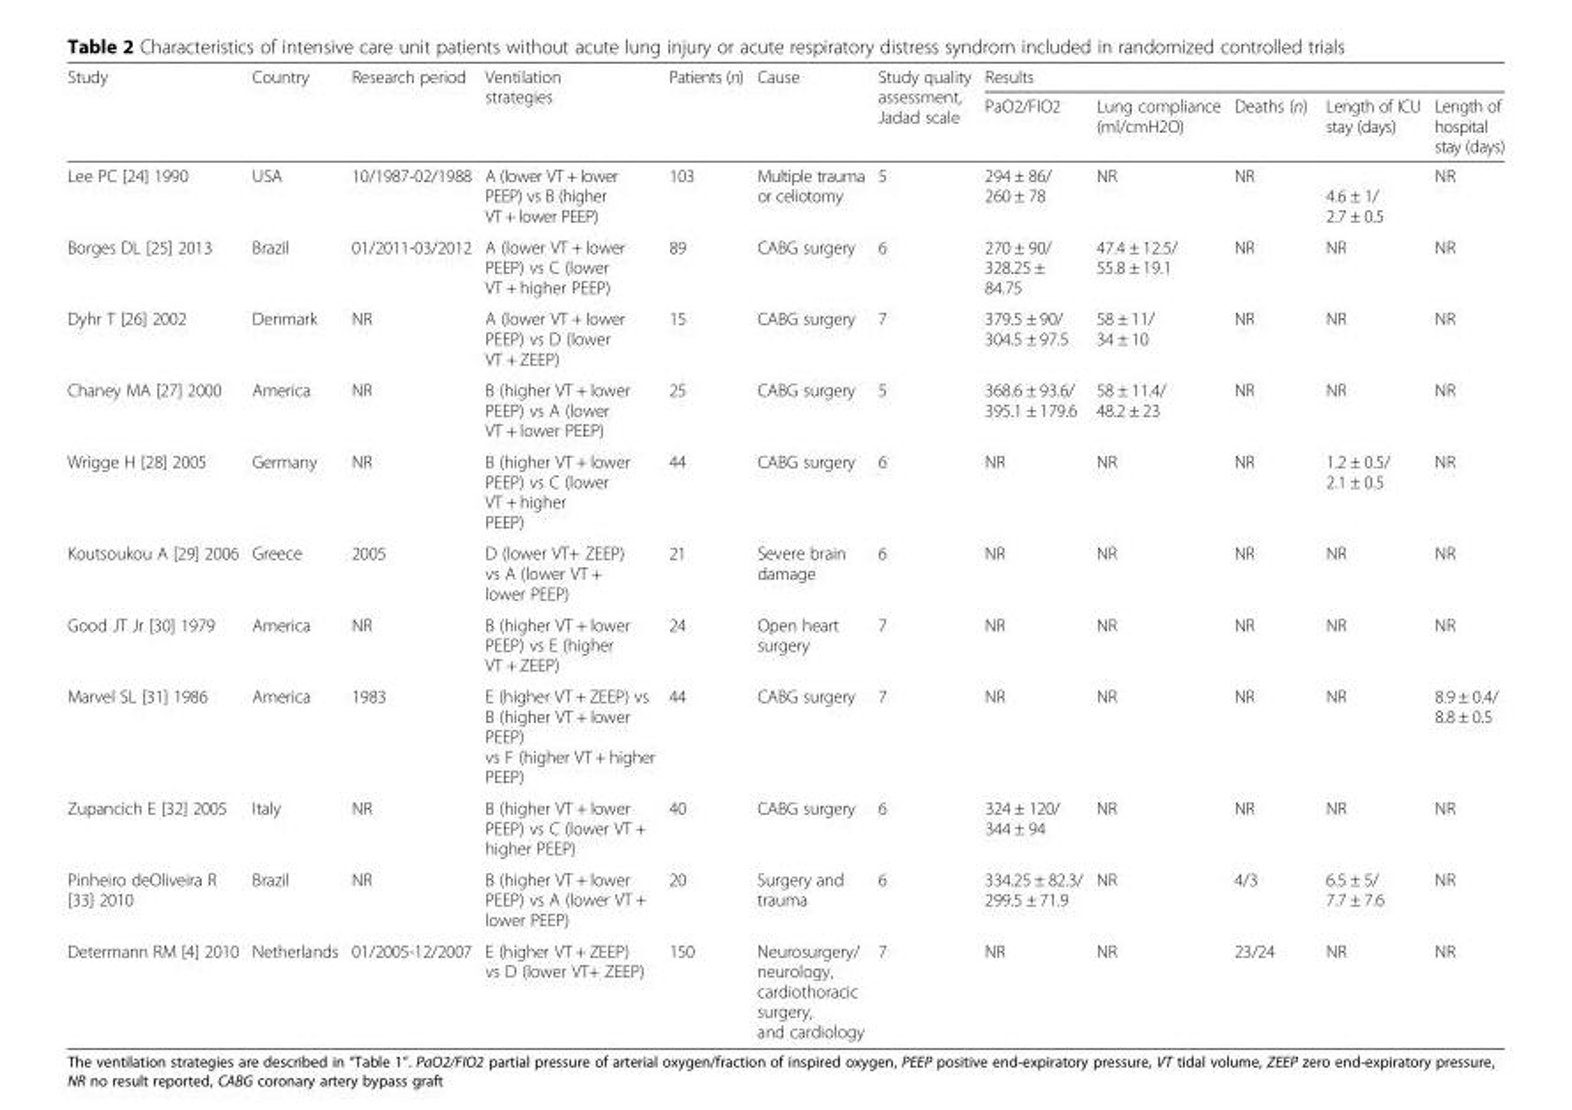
<table><thead><tr><td rowspan="2">Study</td><td rowspan="2">Country</td><td rowspan="2">Research period</td><td rowspan="2">Ventilation strategies</td><td rowspan="2">Patients (n)</td><td rowspan="2">Cause</td><td rowspan="2">Study quality assessment, Jadad scale</td><td colspan="5">Results</td></tr><tr><td>PaO2/FIO2</td><td>Lung compliance (ml/cmH2O)</td><td>Deaths (n)</td><td>Length of ICU stay (days)</td><td>Length of hospital stay (days)</td></tr></thead><tbody><tr><td>Lee PC [24] 1990</td><td>USA</td><td>10/1987-02/1988</td><td>A (lower VT + lower PEEP) vs B (higher VT + lower PEEP)</td><td>103</td><td>Multiple trauma or celiotomy</td><td>5</td><td>294 ± 86/ 260 ± 78</td><td>NR</td><td>NR</td><td>4.6 ± 1/ 2.7 ± 0.5</td><td>NR</td></tr><tr><td>Borges DL [25] 2013</td><td>Brazil</td><td>01/2011-03/2012</td><td>A (lower VT + lower PEEP) vs C (lower VT + higher PEEP)</td><td>89</td><td>CABG surgery</td><td>6</td><td>270 ± 90/ 328.25 ± 84.75</td><td>47.4 ± 12.5/ 55.8 ± 19.1</td><td>NR</td><td>NR</td><td>NR</td></tr><tr><td>Dyhr T [26] 2002</td><td>Denmark</td><td>NR</td><td>A (lower VT + lower PEEP) vs D (lower VT + ZEEP)</td><td>15</td><td>CABG surgery</td><td>7</td><td>379.5 ± 90/ 304.5 ± 97.5</td><td>58 ± 11/ 34 ± 10</td><td>NR</td><td>NR</td><td>NR</td></tr><tr><td>Chaney MA [27] 2000</td><td>America</td><td>NR</td><td>B (higher VT + lower PEEP) vs A (lower VT + lower PEEP)</td><td>25</td><td>CABG surgery</td><td>5</td><td>368.6 ± 93.6/ 395.1 ± 179.6</td><td>58 ± 11.4/ 48.2 ± 23</td><td>NR</td><td>NR</td><td>NR</td></tr><tr><td>Wrigge H [28] 2005</td><td>Germany</td><td>NR</td><td>B (higher VT + lower PEEP) vs C (lower VT + higher PEEP)</td><td>44</td><td>CABG surgery</td><td>6</td><td>NR</td><td>NR</td><td>NR</td><td>1.2 ± 0.5/ 2.1 ± 0.5</td><td>NR</td></tr><tr><td>Koutsoukou A [29] 2006</td><td>Greece</td><td>2005</td><td>D (lower VT+ ZEEP) vs A (lower VT + lower PEEP)</td><td>21</td><td>Severe brain damage</td><td>6</td><td>NR</td><td>NR</td><td>NR</td><td>NR</td><td>NR</td></tr><tr><td>Good JT Jr [30] 1979</td><td>America</td><td>NR</td><td>B (higher VT + lower PEEP) vs E (higher VT + ZEEP)</td><td>24</td><td>Open heart surgery</td><td>7</td><td>NR</td><td>NR</td><td>NR</td><td>NR</td><td>NR</td></tr><tr><td>Marvel SL [31] 1986</td><td>America</td><td>1983</td><td>E (higher VT + ZEEP) vs B (higher VT + lower PEEP) vs F (higher VT + higher PEEP)</td><td>44</td><td>CABG surgery</td><td>7</td><td>NR</td><td>NR</td><td>NR</td><td>NR</td><td>8.9 ± 0.4/ 8.8 ± 0.5</td></tr><tr><td>Zupancich E [32] 2005</td><td>Italy</td><td>NR</td><td>B (higher VT + lower PEEP) vs C (lower VT + higher PEEP)</td><td>40</td><td>CABG surgery</td><td>6</td><td>324 ± 120/ 344 ± 94</td><td>NR</td><td>NR</td><td>NR</td><td>NR</td></tr><tr><td>Pinheiro deOliveira R [33] 2010</td><td>Brazil</td><td>NR</td><td>B (higher VT + lower PEEP) vs A (lower VT + lower PEEP)</td><td>20</td><td>Surgery and trauma</td><td>6</td><td>334.25 ± 82.3/ 299.5 ± 71.9</td><td>NR</td><td>4/3</td><td>6.5 ± 5/ 7.7 ± 7.6</td><td>NR</td></tr><tr><td>Determann RM [4] 2010</td><td>Netherlands</td><td>01/2005-12/2007</td><td>E (higher VT + ZEEP) vs D (lower VT+ ZEEP)</td><td>150</td><td>Neurosurgery/ neurology, cardiothoracic surgery, and cardiology</td><td>7</td><td>NR</td><td>NR</td><td>23/24</td><td>NR</td><td>NR</td></tr></tbody></table>